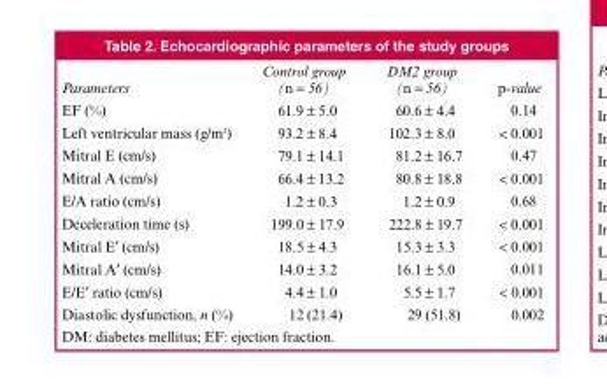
<table><thead><tr><td>Parameters</td><td>Control group (n = 56)</td><td>DM2 group (n = 56)</td><td>p-value</td></tr></thead><tbody><tr><td>EF (%)</td><td>61.9 ± 5.0</td><td>60.6 ± 4.4</td><td>0.14</td></tr><tr><td>Left ventricular mass (g/m<sup>2</sup>)</td><td>93.2 ± 8.4</td><td>102.3 ± 8.0</td><td>&lt; 0.001</td></tr><tr><td>Mitral E (cm/s)</td><td>79.1 ± 14.1</td><td>81.2 ± 16.7</td><td>0.47</td></tr><tr><td>Mitral A (cm/s)</td><td>66.4 ± 13.2</td><td>80.8 ± 18.8</td><td>&lt; 0.001</td></tr><tr><td>E/A ratio (cm/s)</td><td>1.2 ± 0.3</td><td>1.2 ± 0.9</td><td>0.68</td></tr><tr><td>Deceleration time (s)</td><td>199.0 ± 17.9</td><td>222.8 ± 19.7</td><td>&lt; 0.001</td></tr><tr><td>Mitral E′ (cm/s)</td><td>18.5 ± 4.3</td><td>15.3 ± 3.3</td><td>&lt; 0.001</td></tr><tr><td>Mitral A′ (cm/s)</td><td>14.0 ± 3.2</td><td>16.1 ± 5.0</td><td>0.011</td></tr><tr><td>E/E′ ratio (cm/s)</td><td>4.4 ± 1.0</td><td>5.5 ± 1.7</td><td>&lt; 0.001</td></tr><tr><td>Diastolic dysfunction, n (%)</td><td>12 (21.4)</td><td>29 (51.8)</td><td>0.002</td></tr></tbody></table>